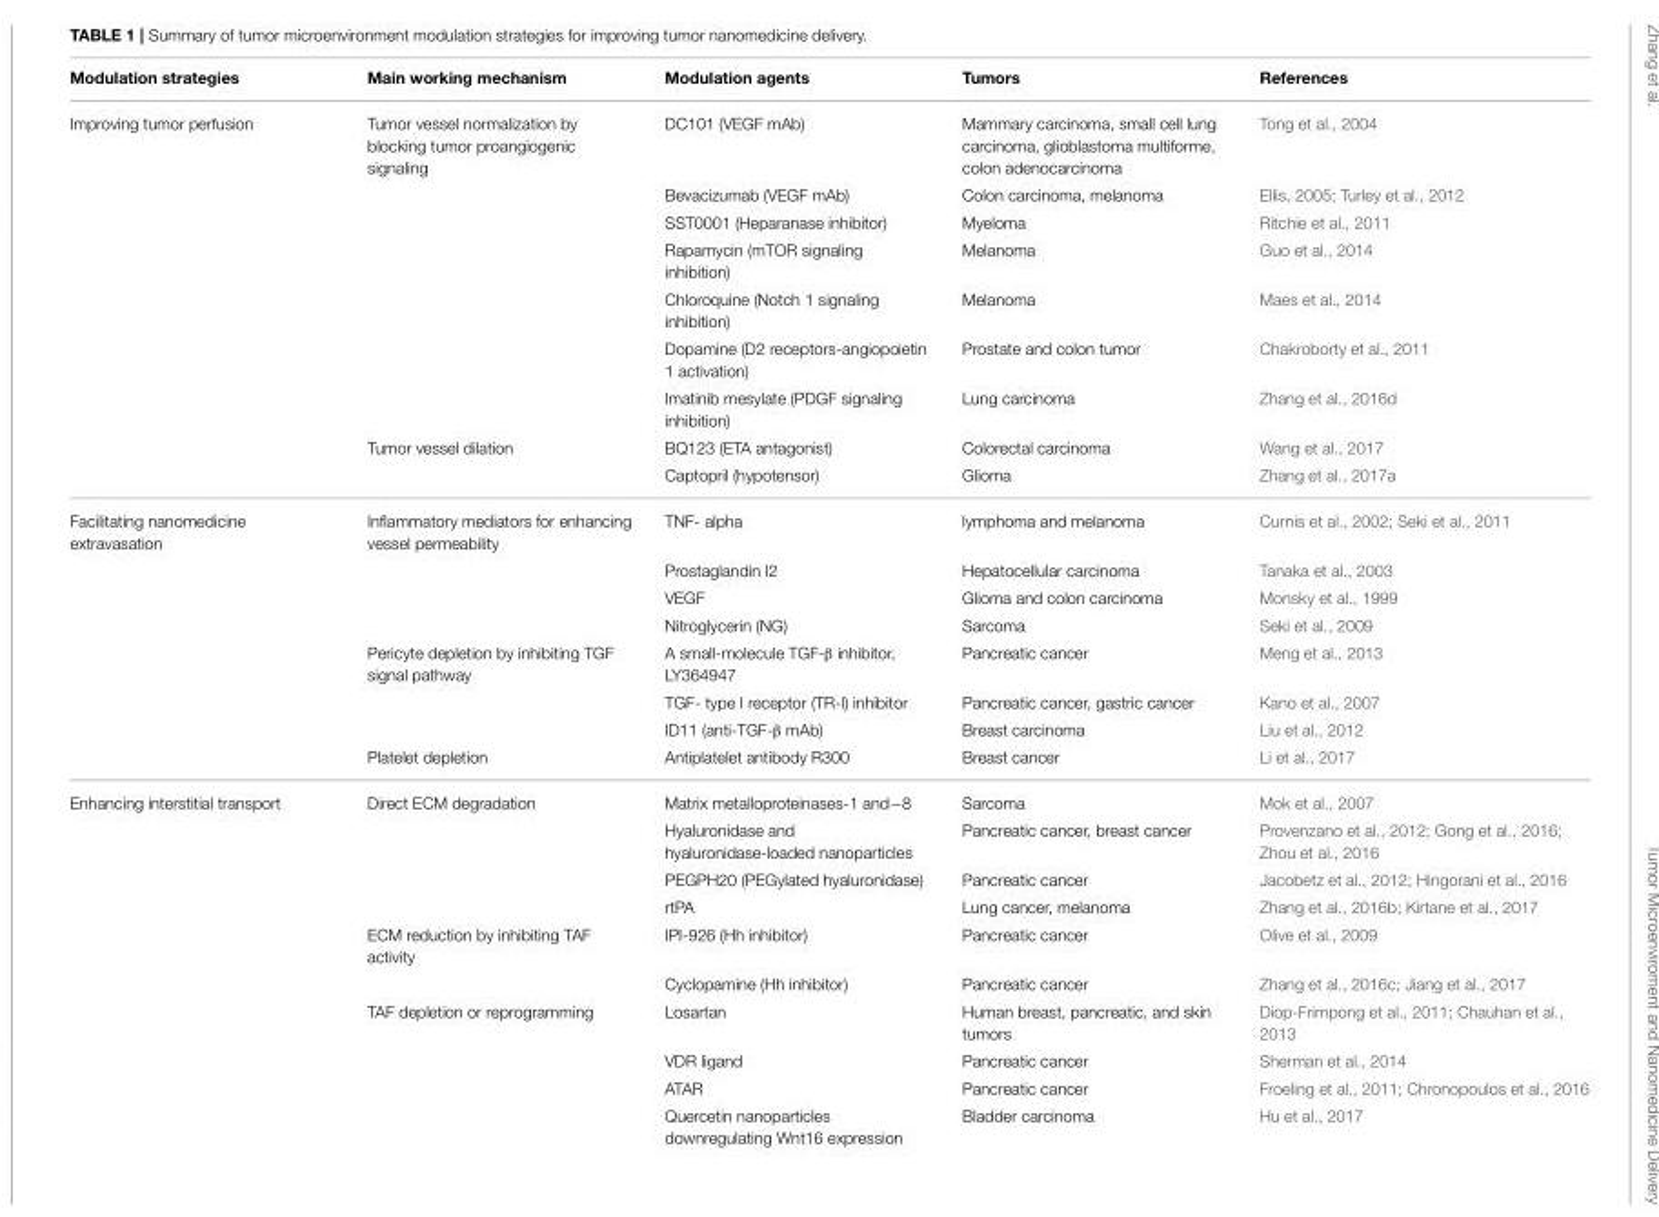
<table><thead><tr><td>Modulation strategies</td><td>Main working mechanism</td><td>Modulation agents</td><td>Tumors</td><td>References</td></tr></thead><tbody><tr><td rowspan="9">Improving tumor perfusion</td><td>Tumor vessel normalization by blocking tumor proangiogenic signaling</td><td>DC101 (VEGF mAb)</td><td>Mammary carcinoma, small cell lung carcinoma, glioblastoma multiforme, colon adenocarcinoma</td><td>Tong et al., 2004</td></tr><tr><td></td><td>Bevacizumab (VEGF mAb)</td><td>Colon carcinoma, melanoma</td><td>Ellis, 2005; Turley et al., 2012</td></tr><tr><td></td><td>SST0001 (Heparanase inhibitor)</td><td>Myeloma</td><td>Ritchie et al., 2011</td></tr><tr><td></td><td>Rapamycin (mTOR signaling inhibition)</td><td>Melanoma</td><td>Guo et al., 2014</td></tr><tr><td></td><td>Chloroquine (Notch 1 signaling inhibition)</td><td>Melanoma</td><td>Maes et al., 2014</td></tr><tr><td></td><td>Dopamine (D2 receptors-angiopoietin 1 activation)</td><td>Prostate and colon tumor</td><td>Chakroborty et al., 2011</td></tr><tr><td></td><td>Imatinib mesylate (PDGF signaling inhibition)</td><td>Lung carcinoma</td><td>Zhang et al., 2016d</td></tr><tr><td>Tumor vessel dilation</td><td>BQ123 (ETA antagonist)</td><td>Colorectal carcinoma</td><td>Wang et al., 2017</td></tr><tr><td></td><td>Captopril (hypotensor)</td><td>Glioma</td><td>Zhang et al., 2017a</td></tr><tr><td rowspan="8">Facilitating nanomedicine extravasation</td><td>Inflammatory mediators for enhancing vessel permeability</td><td>TNF- alpha</td><td>lymphoma and melanoma</td><td>Curnis et al., 2002; Seki et al., 2011</td></tr><tr><td></td><td>Prostaglandin I2</td><td>Hepatocellular carcinoma</td><td>Tanaka et al., 2003</td></tr><tr><td></td><td>VEGF</td><td>Glioma and colon carcinoma</td><td>Monsky et al., 1999</td></tr><tr><td></td><td>Nitroglycerin (NG)</td><td>Sarcoma</td><td>Seki et al., 2009</td></tr><tr><td>Pericyte depletion by inhibiting TGF signal pathway</td><td>A small-molecule TGF-β inhibitor, LY364947</td><td>Pancreatic cancer</td><td>Meng et al., 2013</td></tr><tr><td></td><td>TGF- type I receptor (TR-I) inhibitor</td><td>Pancreatic cancer, gastric cancer</td><td>Kano et al., 2007</td></tr><tr><td></td><td>ID11 (anti-TGF-β mAb)</td><td>Breast carcinoma</td><td>Liu et al., 2012</td></tr><tr><td>Platelet depletion</td><td>Antiplatelet antibody R300</td><td>Breast cancer</td><td>Li et al., 2017</td></tr><tr><td rowspan="10">Enhancing interstitial transport</td><td>Direct ECM degradation</td><td>Matrix metalloproteinases-1 and−8</td><td>Sarcoma</td><td>Mok et al., 2007</td></tr><tr><td></td><td>Hyaluronidase and hyaluronidase-loaded nanoparticles</td><td>Pancreatic cancer, breast cancer</td><td>Provenzano et al., 2012; Gong et al., 2016; Zhou et al., 2016</td></tr><tr><td></td><td>PEGPH20 (PEGylated hyaluronidase)</td><td>Pancreatic cancer</td><td>Jacobetz et al., 2012; Hingorani et al., 2016</td></tr><tr><td></td><td>rtPA</td><td>Lung cancer, melanoma</td><td>Zhang et al., 2016b; Kirtane et al., 2017</td></tr><tr><td>ECM reduction by inhibiting TAF activity</td><td>IPI-926 (Hh inhibitor)</td><td>Pancreatic cancer</td><td>Olive et al., 2009</td></tr><tr><td></td><td>Cyclopamine (Hh inhibitor)</td><td>Pancreatic cancer</td><td>Zhang et al., 2016c; Jiang et al., 2017</td></tr><tr><td>TAF depletion or reprogramming</td><td>Losartan</td><td>Human breast, pancreatic, and skin tumors</td><td>Diop-Frimpong et al., 2011; Chauhan et al., 2013</td></tr><tr><td></td><td>VDR ligand</td><td>Pancreatic cancer</td><td>Sherman et al., 2014</td></tr><tr><td></td><td>ATAR</td><td>Pancreatic cancer</td><td>Froeling et al., 2011; Chronopoulos et al., 2016</td></tr><tr><td></td><td>Quercetin nanoparticles downregulating Wnt16 expression</td><td>Bladder carcinoma</td><td>Hu et al., 2017</td></tr></tbody></table>